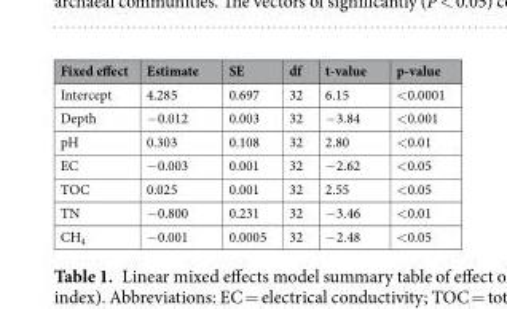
<table><thead><tr><td>Fixed effect</td><td>Estimate</td><td>SE</td><td>df</td><td>t-value</td><td>p-value</td></tr></thead><tbody><tr><td>Intercept</td><td>4.285</td><td>0.697</td><td>32</td><td>6.15</td><td>&lt;0.0001</td></tr><tr><td>Depth</td><td>−0.012</td><td>0.003</td><td>32</td><td>−3.84</td><td>&lt;0.001</td></tr><tr><td>pH</td><td>0.303</td><td>0.108</td><td>32</td><td>2.80</td><td>&lt;0.01</td></tr><tr><td>EC</td><td>−0.003</td><td>0.001</td><td>32</td><td>−2.62</td><td>&lt;0.05</td></tr><tr><td>TOC</td><td>0.025</td><td>0.001</td><td>32</td><td>2.55</td><td>&lt;0.05</td></tr><tr><td>TN</td><td>−0.800</td><td>0.231</td><td>32</td><td>−3.46</td><td>&lt;0.01</td></tr><tr><td>CH<sub>4</sub></td><td>−0.001</td><td>0.0005</td><td>32</td><td>−2.48</td><td>&lt;0.05</td></tr></tbody></table>